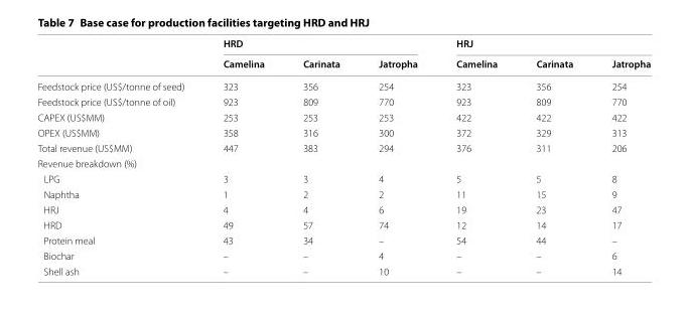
<table><thead><tr><td rowspan="2"></td><td colspan="3">HRD</td><td colspan="3">HRJ</td></tr><tr><td>Camelina</td><td>Carinata</td><td>Jatropha</td><td>Camelina</td><td>Carinata</td><td>Jatropha</td></tr></thead><tbody><tr><td>Feedstock price (US$/tonne of seed)</td><td>323</td><td>356</td><td>254</td><td>323</td><td>356</td><td>254</td></tr><tr><td>Feedstock price (US$/tonne of oil)</td><td>923</td><td>809</td><td>770</td><td>923</td><td>809</td><td>770</td></tr><tr><td>CAPEX (US$MM)</td><td>253</td><td>253</td><td>253</td><td>422</td><td>422</td><td>422</td></tr><tr><td>OPEX (US$MM)</td><td>358</td><td>316</td><td>300</td><td>372</td><td>329</td><td>313</td></tr><tr><td>Total revenue (US$MM)</td><td>447</td><td>383</td><td>294</td><td>376</td><td>311</td><td>206</td></tr><tr><td colspan="7">Revenue breakdown (%)</td></tr><tr><td>LPG</td><td>3</td><td>3</td><td>4</td><td>5</td><td>5</td><td>8</td></tr><tr><td>Naphtha</td><td>1</td><td>2</td><td>2</td><td>11</td><td>15</td><td>9</td></tr><tr><td>HRJ</td><td>4</td><td>4</td><td>6</td><td>19</td><td>23</td><td>47</td></tr><tr><td>HRD</td><td>49</td><td>57</td><td>74</td><td>12</td><td>14</td><td>17</td></tr><tr><td>Protein meal</td><td>43</td><td>34</td><td>–</td><td>54</td><td>44</td><td>–</td></tr><tr><td>Biochar</td><td>–</td><td>–</td><td>4</td><td>–</td><td>–</td><td>6</td></tr><tr><td>Shell ash</td><td>–</td><td>–</td><td>10</td><td>–</td><td>–</td><td>14</td></tr></tbody></table>